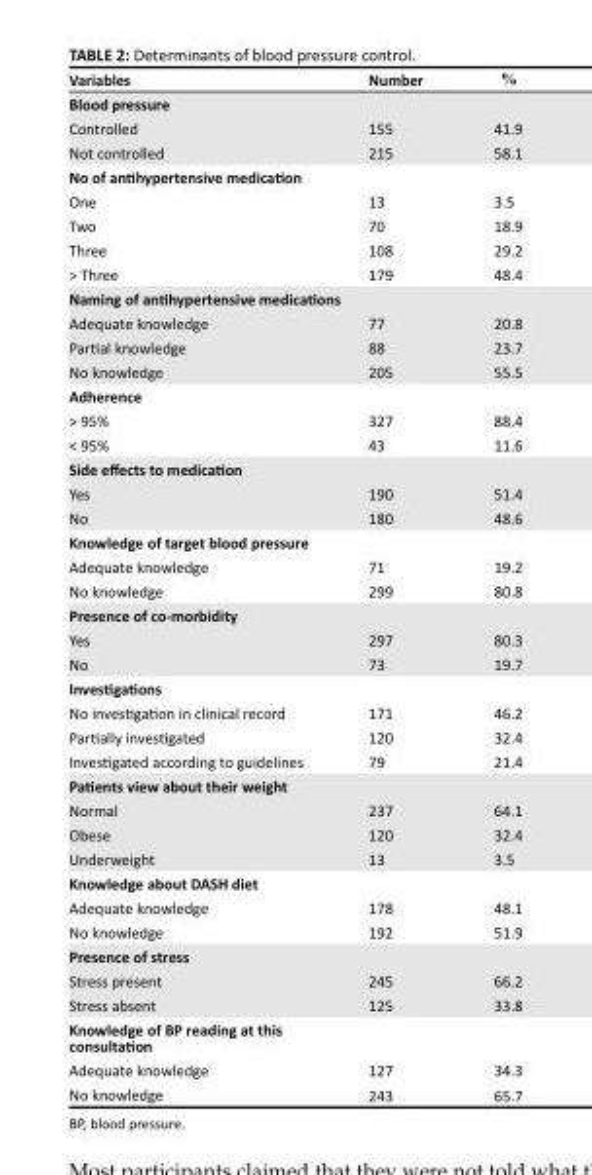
<table><thead><tr><td>Variables</td><td>Number</td><td>%</td></tr></thead><tbody><tr><td colspan="3">Blood pressure</td></tr><tr><td>Controlled</td><td>155</td><td>41.9</td></tr><tr><td>Not controlled</td><td>215</td><td>58.1</td></tr><tr><td colspan="3">No of antihypertensive medication</td></tr><tr><td>One</td><td>13</td><td>3.5</td></tr><tr><td>Two</td><td>70</td><td>18.9</td></tr><tr><td>Three</td><td>108</td><td>29.2</td></tr><tr><td>&gt; Three</td><td>179</td><td>48.4</td></tr><tr><td colspan="3">Naming of antihypertensive medications</td></tr><tr><td>Adequate knowledge</td><td>77</td><td>20.8</td></tr><tr><td>Partial knowledge</td><td>88</td><td>23.7</td></tr><tr><td>No knowledge</td><td>205</td><td>55.5</td></tr><tr><td colspan="3">Adherence</td></tr><tr><td>&gt; 95%</td><td>327</td><td>88.4</td></tr><tr><td>&lt; 95%</td><td>43</td><td>11.6</td></tr><tr><td colspan="3">Side effects to medication</td></tr><tr><td>Yes</td><td>190</td><td>51.4</td></tr><tr><td>No</td><td>180</td><td>48.6</td></tr><tr><td colspan="3">Knowledge of target blood pressure</td></tr><tr><td>Adequate knowledge</td><td>71</td><td>19.2</td></tr><tr><td>No knowledge</td><td>299</td><td>80.8</td></tr><tr><td colspan="3">Presence of co-morbidity</td></tr><tr><td>Yes</td><td>297</td><td>80.3</td></tr><tr><td>No</td><td>73</td><td>19.7</td></tr><tr><td colspan="3">Investigations</td></tr><tr><td>No investigation in clinical record</td><td>171</td><td>46.2</td></tr><tr><td>Partially investigated</td><td>120</td><td>32.4</td></tr><tr><td>Investigated according to guidelines</td><td>79</td><td>21.4</td></tr><tr><td colspan="3">Patients view about their weight</td></tr><tr><td>Normal</td><td>237</td><td>64.1</td></tr><tr><td>Obese</td><td>120</td><td>32.4</td></tr><tr><td>Underweight</td><td>13</td><td>3.5</td></tr><tr><td colspan="3">Knowledge about DASH diet</td></tr><tr><td>Adequate knowledge</td><td>178</td><td>48.1</td></tr><tr><td>No knowledge</td><td>192</td><td>51.9</td></tr><tr><td colspan="3">Presence of stress</td></tr><tr><td>Stress present</td><td>245</td><td>66.2</td></tr><tr><td>Stress absent</td><td>125</td><td>33.8</td></tr><tr><td colspan="3">Knowledge of BP reading at this consultation</td></tr><tr><td>Adequate knowledge</td><td>127</td><td>34.3</td></tr><tr><td>No knowledge</td><td>243</td><td>65.7</td></tr></tbody></table>